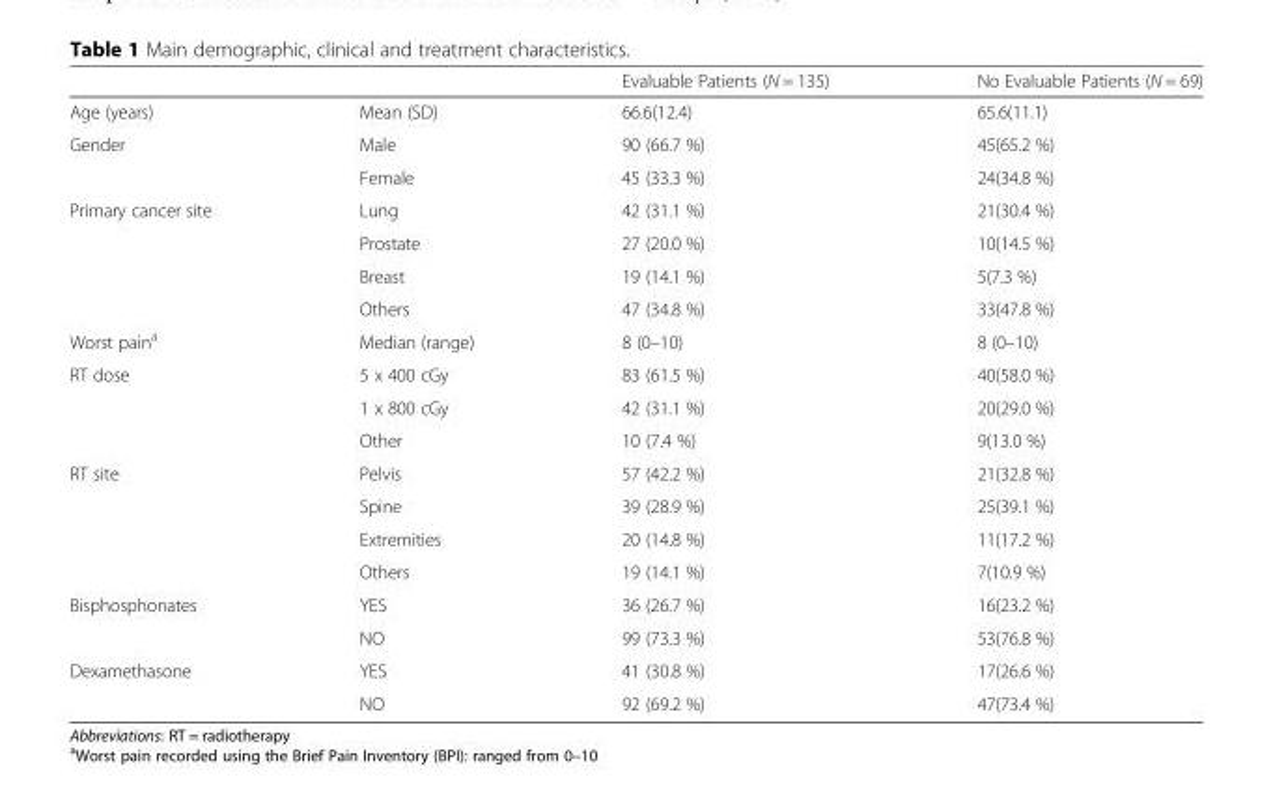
<table><thead><tr><td></td><td></td><td>Evaluable Patients (N = 135)</td><td>No Evaluable Patients (N = 69)</td></tr></thead><tbody><tr><td>Age (years)</td><td>Mean (SD)</td><td>66.6(12.4)</td><td>65.6(11.1)</td></tr><tr><td rowspan="2">Gender</td><td>Male</td><td>90 (66.7 %)</td><td>45(65.2 %)</td></tr><tr><td>Female</td><td>45 (33.3 %)</td><td>24(34.8 %)</td></tr><tr><td rowspan="4">Primary cancer site</td><td>Lung</td><td>42 (31.1 %)</td><td>21(30.4 %)</td></tr><tr><td>Prostate</td><td>27 (20.0 %)</td><td>10(14.5 %)</td></tr><tr><td>Breast</td><td>19 (14.1 %)</td><td>5(7.3 %)</td></tr><tr><td>Others</td><td>47 (34.8 %)</td><td>33(47.8 %)</td></tr><tr><td>Worst pain<sup>a</sup></td><td>Median (range)</td><td>8 (0–10)</td><td>8 (0–10)</td></tr><tr><td rowspan="3">RT dose</td><td>5 x 400 cGy</td><td>83 (61.5 %)</td><td>40(58.0 %)</td></tr><tr><td>1 x 800 cGy</td><td>42 (31.1 %)</td><td>20(29.0 %)</td></tr><tr><td>Other</td><td>10 (7.4 %)</td><td>9(13.0 %)</td></tr><tr><td rowspan="4">RT site</td><td>Pelvis</td><td>57 (42.2 %)</td><td>21(32.8 %)</td></tr><tr><td>Spine</td><td>39 (28.9 %)</td><td>25(39.1 %)</td></tr><tr><td>Extremities</td><td>20 (14.8 %)</td><td>11(17.2 %)</td></tr><tr><td>Others</td><td>19 (14.1 %)</td><td>7(10.9 %)</td></tr><tr><td rowspan="2">Bisphosphonates</td><td>YES</td><td>36 (26.7 %)</td><td>16(23.2 %)</td></tr><tr><td>NO</td><td>99 (73.3 %)</td><td>53(76.8 %)</td></tr><tr><td rowspan="2">Dexamethasone</td><td>YES</td><td>41 (30.8 %)</td><td>17(26.6 %)</td></tr><tr><td>NO</td><td>92 (69.2 %)</td><td>47(73.4 %)</td></tr></tbody></table>